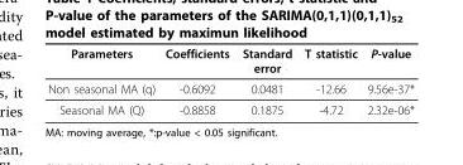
<table><thead><tr><td>Parameters</td><td>Coefficients</td><td>Standard error</td><td>T statistic</td><td>P-value</td></tr></thead><tbody><tr><td>Non seasonal MA (q)</td><td>-0.6092</td><td>0.0481</td><td>-12.66</td><td>9.56e-37*</td></tr><tr><td>Seasonal MA (Q)</td><td>-0.8858</td><td>0.1875</td><td>-4.72</td><td>2.32e-06*</td></tr></tbody></table>